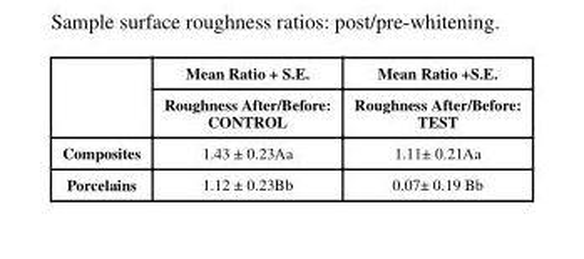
<table><thead><tr><td rowspan="2"></td><td rowspan="2">Mean Ratio + S.E. Roughness After/Before: CONTROL</td><td rowspan="2">Mean Ratio +S.E. Roughness After/Before: TEST</td></tr><tr></tr></thead><tbody><tr><td>Composites</td><td>1.43 ± 0.23Aa</td><td>1.11± 0.21Aa</td></tr><tr><td>Porcelains</td><td>1.12 ± 0.23Bb</td><td>0.07± 0.19 Bb</td></tr></tbody></table>